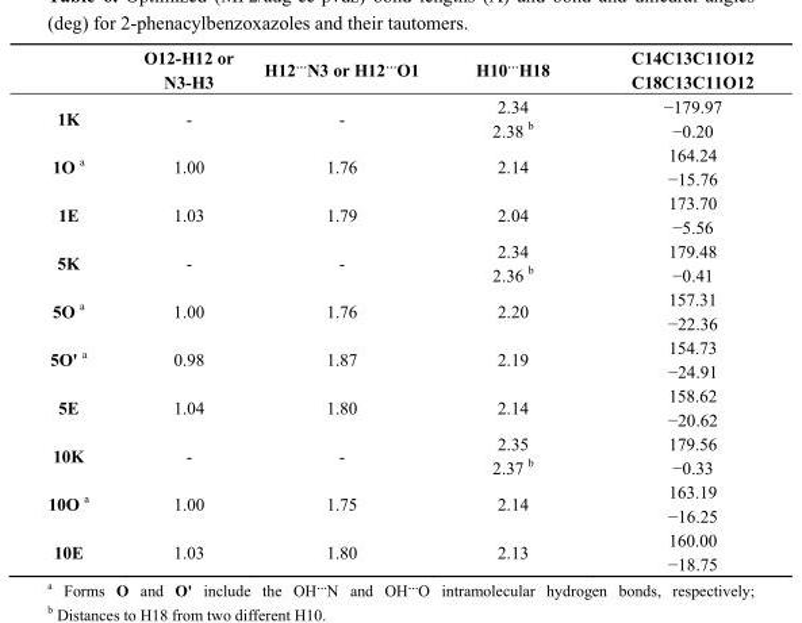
<table><thead><tr><td></td><td>O12-H12 or N3-H3</td><td>H12…N3 or H12…O1</td><td>H10…H18</td><td>C14C13C11O12 C18C13C11O12</td></tr></thead><tbody><tr><td>1K</td><td>-</td><td>-</td><td>2.34 2.38 b</td><td>−179.97 −0.20</td></tr><tr><td>1O <sup>a</sup></td><td>1.00</td><td>1.76</td><td>2.14</td><td>164.24 −15.76</td></tr><tr><td>1E</td><td>1.03</td><td>1.79</td><td>2.04</td><td>173.70 −5.56</td></tr><tr><td>5K</td><td>-</td><td>-</td><td>2.34 2.36 b</td><td>179.48 −0.41</td></tr><tr><td>5O <sup>a</sup></td><td>1.00</td><td>1.76</td><td>2.20</td><td>157.31 −22.36</td></tr><tr><td>5O&#x27; <sup>a</sup></td><td>0.98</td><td>1.87</td><td>2.19</td><td>154.73 −24.91</td></tr><tr><td>5E</td><td>1.04</td><td>1.80</td><td>2.14</td><td>158.62 −20.62</td></tr><tr><td>10K</td><td>-</td><td>-</td><td>2.35 2.37 b</td><td>179.56 −0.33</td></tr><tr><td>10O <sup>a</sup></td><td>1.00</td><td>1.75</td><td>2.14</td><td>163.19 −16.25</td></tr><tr><td>10E</td><td>1.03</td><td>1.80</td><td>2.13</td><td>160.00 −18.75</td></tr></tbody></table>